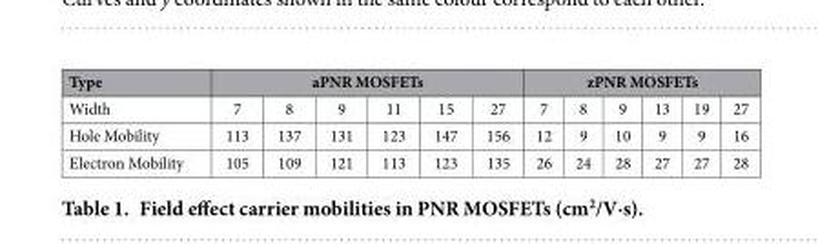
<table><thead><tr><td rowspan="2">Type Width</td><td colspan="6">aPNR MOSFETs</td><td colspan="6">zPNR MOSFETs</td></tr><tr><td>7</td><td>8</td><td>9</td><td>11</td><td>15</td><td>27</td><td>7</td><td>8</td><td>9</td><td>13</td><td>19</td><td>27</td></tr></thead><tbody><tr><td>Hole Mobility</td><td>113</td><td>137</td><td>131</td><td>123</td><td>147</td><td>156</td><td>12</td><td>9</td><td>10</td><td>9</td><td>9</td><td>16</td></tr><tr><td>Electron Mobility</td><td>105</td><td>109</td><td>121</td><td>113</td><td>123</td><td>135</td><td>26</td><td>24</td><td>28</td><td>27</td><td>27</td><td>28</td></tr></tbody></table>